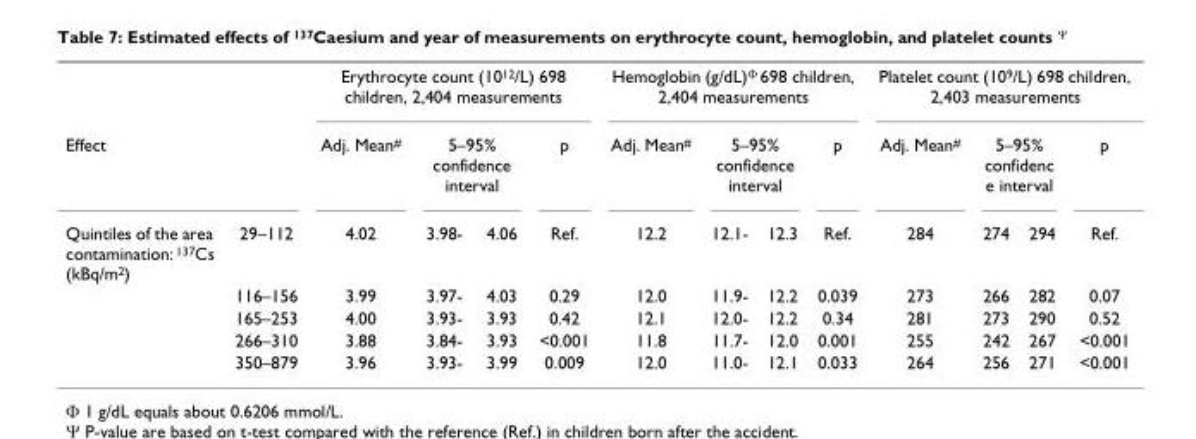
<table><thead><tr><td rowspan="3">Effect Quintiles of the area contamination: <sup>137</sup>Cs (kBq/m<sup>2</sup>)</td><td rowspan="3">29–112</td><td colspan="4">Erythrocyte count (10<sup>12</sup>/L) 698 children, 2,404 measurements</td><td colspan="4">Hemoglobin (g/dL)<sup>Φ</sup> 698 children, 2,404 measurements</td><td colspan="4">Platelet count (10<sup>9</sup>/L) 698 children, 2,403 measurements</td></tr><tr><td rowspan="2">Adj. Mean<sup>#</sup> 4.02</td><td colspan="2">5–95% confidence interval</td><td rowspan="2">p Ref.</td><td rowspan="2">Adj. Mean<sup>#</sup> 12.2</td><td colspan="2">5–95% confidence interval</td><td rowspan="2">p Ref.</td><td rowspan="2">Adj. Mean<sup>#</sup> 284</td><td colspan="2">5–95% confidenc e interval</td><td rowspan="2">p Ref.</td></tr><tr><td>3.98-</td><td>4.06</td><td>12.1-</td><td>12.3</td><td>274</td><td>294</td></tr></thead><tbody><tr><td></td><td>116–156</td><td>3.99</td><td>3.97-</td><td>4.03</td><td>0.29</td><td>12.0</td><td>11.9-</td><td>12.2</td><td>0.039</td><td>273</td><td>266</td><td>282</td><td>0.07</td></tr><tr><td></td><td>165–253</td><td>4.00</td><td>3.93-</td><td>3.93</td><td>0.42</td><td>12.1</td><td>12.0-</td><td>12.2</td><td>0.34</td><td>281</td><td>273</td><td>290</td><td>0.52</td></tr><tr><td></td><td>266–310</td><td>3.88</td><td>3.84-</td><td>3.93</td><td>&lt;0.001</td><td>11.8</td><td>11.7-</td><td>12.0</td><td>0.001</td><td>255</td><td>242</td><td>267</td><td>&lt;0.001</td></tr><tr><td></td><td>350–879</td><td>3.96</td><td>3.93-</td><td>3.99</td><td>0.009</td><td>12.0</td><td>11.0-</td><td>12.1</td><td>0.033</td><td>264</td><td>256</td><td>271</td><td>&lt;0.001</td></tr></tbody></table>